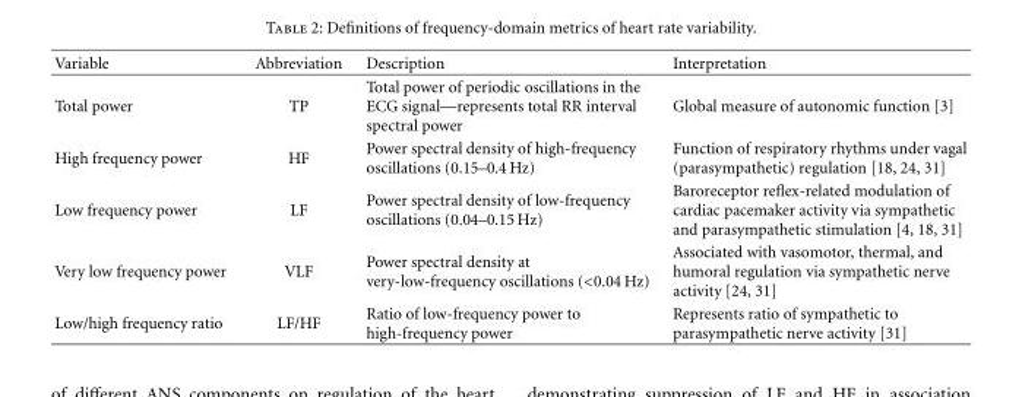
<table><thead><tr><td>Variable</td><td>Abbreviation</td><td>Description</td><td>Interpretation</td></tr></thead><tbody><tr><td>Total power</td><td>TP</td><td>Total power of periodic oscillations in the ECG signal—represents total RR interval spectral power</td><td>Global measure of autonomic function [3]</td></tr><tr><td>High frequency power</td><td>HF</td><td>Power spectral density of high-frequency oscillations (0.15–0.4 Hz)</td><td>Function of respiratory rhythms under vagal (parasympathetic) regulation [18, 24, 31]</td></tr><tr><td>Low frequency power</td><td>LF</td><td>Power spectral density of low-frequency oscillations (0.04–0.15 Hz)</td><td>Baroreceptor reflex-related modulation of cardiac pacemaker activity via sympathetic and parasympathetic stimulation [4, 18, 31]</td></tr><tr><td>Very low frequency power</td><td>VLF</td><td>Power spectral density at very-low-frequency oscillations (&lt;0.04 Hz)</td><td>Associated with vasomotor, thermal, and humoral regulation via sympathetic nerve activity [24, 31]</td></tr><tr><td>Low/high frequency ratio</td><td>LF/HF</td><td>Ratio of low-frequency power to high-frequency power</td><td>Represents ratio of sympathetic to parasympathetic nerve activity [31]</td></tr></tbody></table>